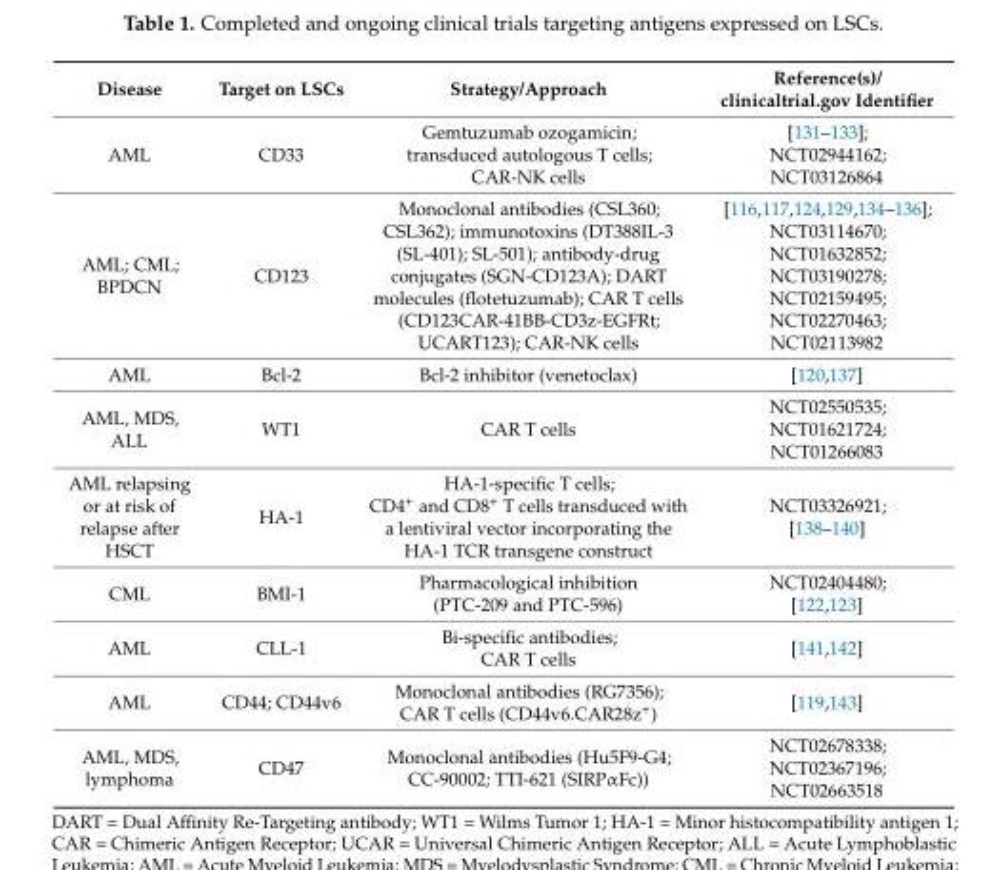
<table><thead><tr><td>Disease</td><td>Target on LSCs</td><td>Strategy/Approach</td><td>Reference(s)/ clinicaltrial.gov Identifier</td></tr></thead><tbody><tr><td>AML</td><td>CD33</td><td>Gemtuzumab ozogamicin; transduced autologous T cells; CAR-NK cells</td><td>[131–133]; NCT02944162; NCT03126864</td></tr><tr><td>AML; CML; BPDCN</td><td>CD123</td><td>Monoclonal antibodies (CSL360; CSL362); immunotoxins (DT388IL-3 (SL-401); SL-501); antibody-drug conjugates (SGN-CD123A); DART molecules (flotetuzumab); CAR T cells (CD123CAR-41BB-CD3z-EGFRt; UCART123); CAR-NK cells</td><td>[116,117,124,129,134–136]; NCT03114670; NCT01632852; NCT03190278; NCT02159495; NCT02270463; NCT02113982</td></tr><tr><td>AML</td><td>Bcl-2</td><td>Bcl-2 inhibitor (venetoclax)</td><td>[120,137]</td></tr><tr><td>AML, MDS, ALL</td><td>WT1</td><td>CAR T cells</td><td>NCT02550535; NCT01621724; NCT01266083</td></tr><tr><td>AML relapsing or at risk of relapse after HSCT</td><td>HA-1</td><td>HA-1-specific T cells; CD4<sup>+</sup> and CD8<sup>+</sup> T cells transduced with a lentiviral vector incorporating the HA-1 TCR transgene construct</td><td>NCT03326921; [138–140]</td></tr><tr><td>CML</td><td>BMI-1</td><td>Pharmacological inhibition (PTC-209 and PTC-596)</td><td>NCT02404480; [122,123]</td></tr><tr><td>AML</td><td>CLL-1</td><td>Bi-specific antibodies; CAR T cells</td><td>[141,142]</td></tr><tr><td>AML</td><td>CD44; CD44v6</td><td>Monoclonal antibodies (RG7356); CAR T cells (CD44v6.CAR28z<sup>+</sup>)</td><td>[119,143]</td></tr><tr><td>AML, MDS, lymphoma</td><td>CD47</td><td>Monoclonal antibodies (Hu5F9-G4; CC-90002; TTI-621 (SIRPαFc))</td><td>NCT02678338; NCT02367196; NCT02663518</td></tr></tbody></table>